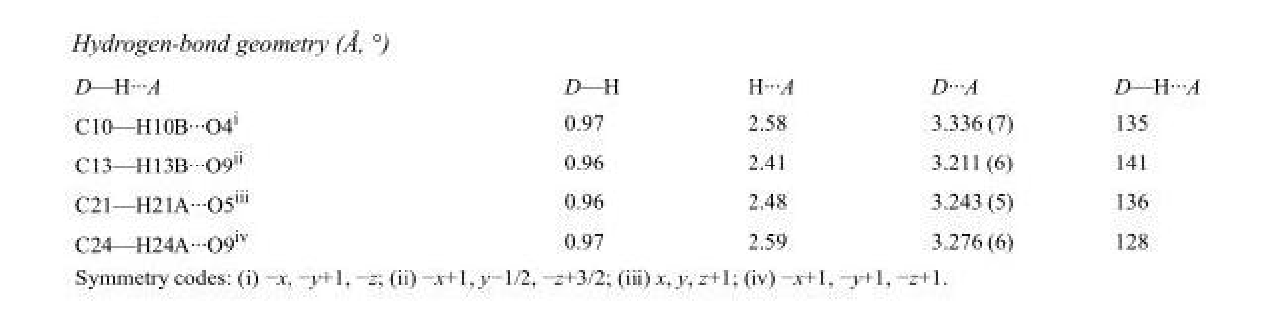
<table><tbody><tr><td>D—H···A</td><td>D—H</td><td>H···A</td><td>D···A</td><td>D—H···A</td></tr><tr><td>C10—H10B···O4<sup>i</sup></td><td>0.97</td><td>2.58</td><td>3.336 (7)</td><td>135</td></tr><tr><td>C13—H13B···O9<sup>ii</sup></td><td>0.96</td><td>2.41</td><td>3.211 (6)</td><td>141</td></tr><tr><td>C21—H21A···O5<sup>iii</sup></td><td>0.96</td><td>2.48</td><td>3.243 (5)</td><td>136</td></tr><tr><td>C24—H24A···O9<sup>iv</sup></td><td>0.97</td><td>2.59</td><td>3.276 (6)</td><td>128</td></tr></tbody></table>